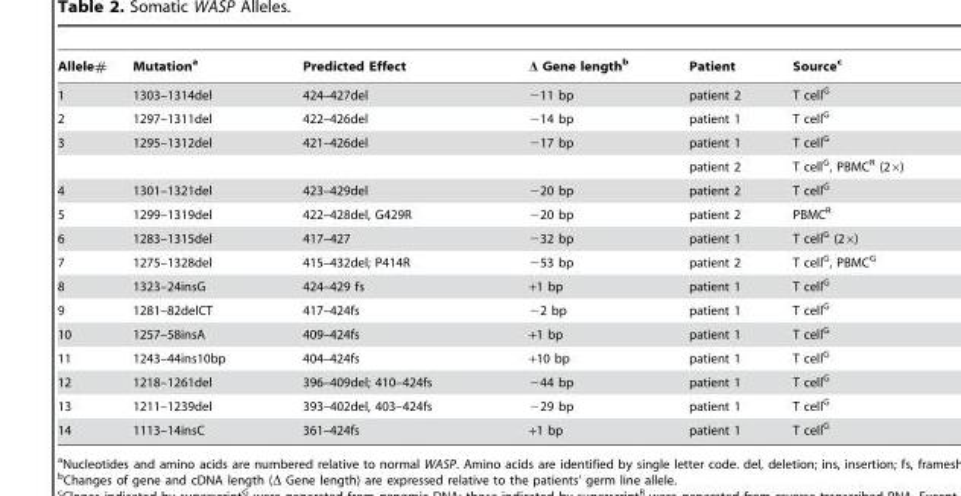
<table><thead><tr><td>Allele#</td><td>Mutation<sup>a</sup></td><td>Predicted Effect</td><td>Δ Gene length<sup>b</sup></td><td>Patient</td><td>Source<sup>c</sup></td></tr></thead><tbody><tr><td>1</td><td>1303–1314del</td><td>424–427del</td><td>−11 bp</td><td>patient 2</td><td>T cell<sup>G</sup></td></tr><tr><td>2</td><td>1297–1311del</td><td>422–426del</td><td>−14 bp</td><td>patient 1</td><td>T cell<sup>G</sup></td></tr><tr><td rowspan="2">3</td><td>1295–1312del</td><td>421–426del</td><td>−17 bp</td><td>patient 1</td><td>T cell<sup>G</sup></td></tr><tr><td></td><td></td><td></td><td>patient 2</td><td>T cell<sup>G</sup>, PBMC<sup>R</sup> (2×)</td></tr><tr><td>4</td><td>1301–1321del</td><td>423–429del</td><td>−20 bp</td><td>patient 2</td><td>T cell<sup>G</sup></td></tr><tr><td>5</td><td>1299–1319del</td><td>422–428del, G429R</td><td>−20 bp</td><td>patient 2</td><td>PBMC<sup>R</sup></td></tr><tr><td>6</td><td>1283–1315del</td><td>417–427</td><td>−32 bp</td><td>patient 1</td><td>T cell<sup>G</sup> (2×)</td></tr><tr><td>7</td><td>1275–1328del</td><td>415–432del; P414R</td><td>−53 bp</td><td>patient 2</td><td>T cell<sup>G</sup>, PBMC<sup>G</sup></td></tr><tr><td>8</td><td>1323–24insG</td><td>424–429 fs</td><td>+1 bp</td><td>patient 1</td><td>T cell<sup>G</sup></td></tr><tr><td>9</td><td>1281–82delCT</td><td>417–424fs</td><td>−2 bp</td><td>patient 1</td><td>T cell<sup>G</sup></td></tr><tr><td>10</td><td>1257–58insA</td><td>409–424fs</td><td>+1 bp</td><td>patient 1</td><td>T cell<sup>G</sup></td></tr><tr><td>11</td><td>1243–44ins10bp</td><td>404–424fs</td><td>+10 bp</td><td>patient 1</td><td>T cell<sup>G</sup></td></tr><tr><td>12</td><td>1218–1261del</td><td>396–409del; 410–424fs</td><td>−44 bp</td><td>patient 1</td><td>T cell<sup>G</sup></td></tr><tr><td>13</td><td>1211–1239del</td><td>393–402del, 403–424fs</td><td>−29 bp</td><td>patient 1</td><td>T cell<sup>G</sup></td></tr><tr><td>14</td><td>1113–14insC</td><td>361–424fs</td><td>+1 bp</td><td>patient 1</td><td>T cell<sup>G</sup></td></tr></tbody></table>